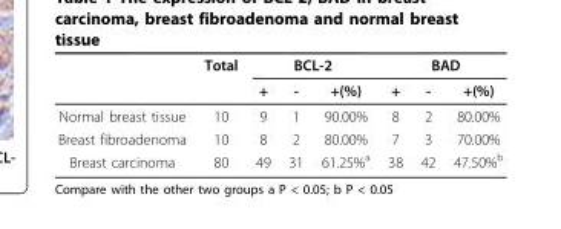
<table><thead><tr><td rowspan="2"></td><td rowspan="2">Total</td><td colspan="3">BCL-2</td><td colspan="3">BAD</td></tr><tr><td>+</td><td>-</td><td>+(%)</td><td>+</td><td>-</td><td>+(%)</td></tr></thead><tbody><tr><td>Normal breast tissue</td><td>10</td><td>9</td><td>1</td><td>90.00%</td><td>8</td><td>2</td><td>80.00%</td></tr><tr><td>Breast fibroadenoma</td><td>10</td><td>8</td><td>2</td><td>80.00%</td><td>7</td><td>3</td><td>70.00%</td></tr><tr><td>Breast carcinoma</td><td>80</td><td>49</td><td>31</td><td>61.25%<sup>a</sup></td><td>38</td><td>42</td><td>47.50%<sup>b</sup></td></tr></tbody></table>